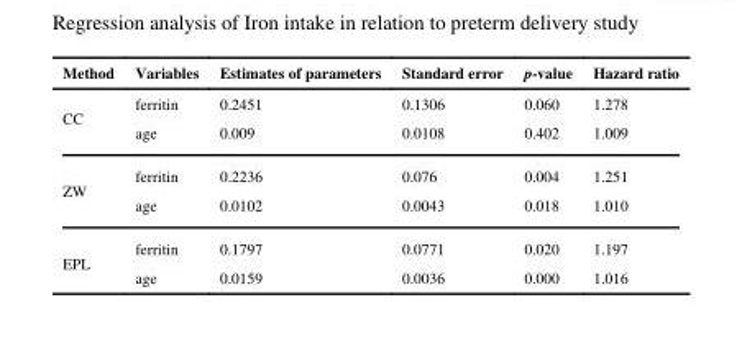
<table><thead><tr><td>Method</td><td>Variables</td><td>Estimates of parameters</td><td>Standard error</td><td>p-value</td><td>Hazard ratio</td></tr></thead><tbody><tr><td rowspan="2">CC</td><td>ferritin</td><td>0.2451</td><td>0.1306</td><td>0.060</td><td>1.278</td></tr><tr><td>age</td><td>0.009</td><td>0.0108</td><td>0.402</td><td>1.009</td></tr><tr><td rowspan="2">ZW</td><td>ferritin</td><td>0.2236</td><td>0.076</td><td>0.004</td><td>1.251</td></tr><tr><td>age</td><td>0.0102</td><td>0.0043</td><td>0.018</td><td>1.010</td></tr><tr><td rowspan="2">EPL</td><td>ferritin</td><td>0.1797</td><td>0.0771</td><td>0.020</td><td>1.197</td></tr><tr><td>age</td><td>0.0159</td><td>0.0036</td><td>0.000</td><td>1.016</td></tr></tbody></table>